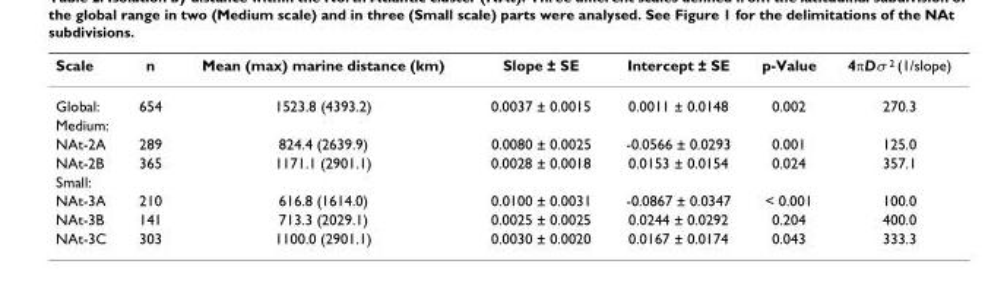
<table><thead><tr><td>Scale</td><td>n</td><td>Mean (max) marine distance (km)</td><td>Slope ± SE</td><td>Intercept ± SE</td><td>p-Value</td><td>4πDσ <sup>2</sup> (1/slope)</td></tr></thead><tbody><tr><td>Global:</td><td>654</td><td>1523.8 (4393.2)</td><td>0.0037 ± 0.0015</td><td>0.0011 ± 0.0148</td><td>0.002</td><td>270.3</td></tr><tr><td colspan="7">Medium:</td></tr><tr><td>NAt-2A</td><td>289</td><td>824.4 (2639.9)</td><td>0.0080 ± 0.0025</td><td>-0.0566 ± 0.0293</td><td>0.001</td><td>125.0</td></tr><tr><td>NAt-2B</td><td>365</td><td>1171.1 (2901.1)</td><td>0.0028 ± 0.0018</td><td>0.0153 ± 0.0154</td><td>0.024</td><td>357.1</td></tr><tr><td colspan="7">Small:</td></tr><tr><td>NAt-3A</td><td>210</td><td>616.8 (1614.0)</td><td>0.0100 ± 0.0031</td><td>-0.0867 ± 0.0347</td><td>&lt; 0.001</td><td>100.0</td></tr><tr><td>NAt-3B</td><td>141</td><td>713.3 (2029.1)</td><td>0.0025 ± 0.0025</td><td>0.0244 ± 0.0292</td><td>0.204</td><td>400.0</td></tr><tr><td>NAt-3C</td><td>303</td><td>1100.0 (2901.1)</td><td>0.0030 ± 0.0020</td><td>0.0167 ± 0.0174</td><td>0.043</td><td>333.3</td></tr></tbody></table>